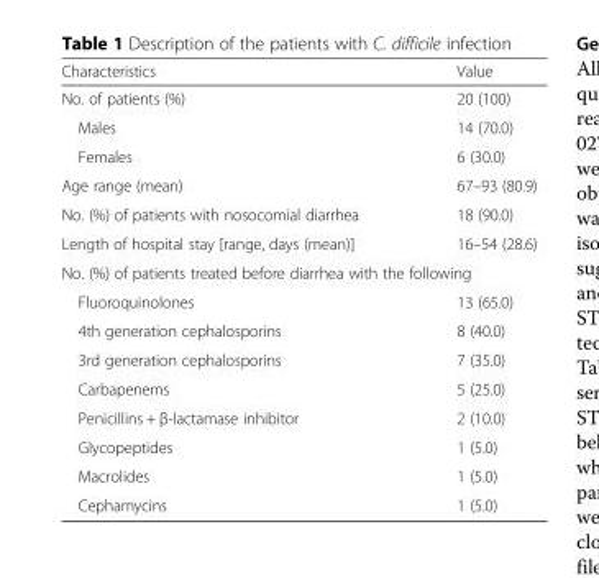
<table><thead><tr><td>Characteristics</td><td>Value</td></tr></thead><tbody><tr><td>No. of patients (%)</td><td>20 (100)</td></tr><tr><td>Males</td><td>14 (70.0)</td></tr><tr><td>Females</td><td>6 (30.0)</td></tr><tr><td>Age range (mean)</td><td>67–93 (80.9)</td></tr><tr><td>No. (%) of patients with nosocomial diarrhea</td><td>18 (90.0)</td></tr><tr><td>Length of hospital stay [range, days (mean)]</td><td>16–54 (28.6)</td></tr><tr><td colspan="2">No. (%) of patients treated before diarrhea with the following</td></tr><tr><td>Fluoroquinolones</td><td>13 (65.0)</td></tr><tr><td>4th generation cephalosporins</td><td>8 (40.0)</td></tr><tr><td>3rd generation cephalosporins</td><td>7 (35.0)</td></tr><tr><td>Carbapenems</td><td>5 (25.0)</td></tr><tr><td>Penicillins + β-lactamase inhibitor</td><td>2 (10.0)</td></tr><tr><td>Glycopeptides</td><td>1 (5.0)</td></tr><tr><td>Macrolides</td><td>1 (5.0)</td></tr><tr><td>Cephamycins</td><td>1 (5.0)</td></tr></tbody></table>